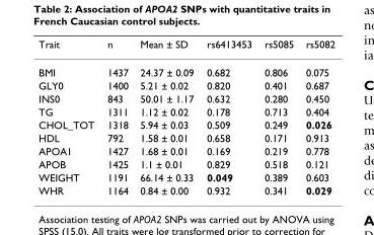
<table><thead><tr><td>Trait</td><td>n</td><td>Mean ± SD</td><td>rs6413453</td><td>rs5085</td><td>rs5082</td></tr></thead><tbody><tr><td>BMI</td><td>1437</td><td>24.37 ± 0.09</td><td>0.682</td><td>0.806</td><td>0.075</td></tr><tr><td>GLY0</td><td>1400</td><td>5.21 ± 0.02</td><td>0.820</td><td>0.401</td><td>0.687</td></tr><tr><td>INS0</td><td>843</td><td>50.01 ± 1.17</td><td>0.632</td><td>0.280</td><td>0.450</td></tr><tr><td>TG</td><td>1311</td><td>1.12 ± 0.02</td><td>0.178</td><td>0.713</td><td>0.404</td></tr><tr><td>CHOL_TOT</td><td>1318</td><td>5.94 ± 0.03</td><td>0.509</td><td>0.249</td><td>0.026</td></tr><tr><td>HDL</td><td>792</td><td>1.58 ± 0.01</td><td>0.658</td><td>0.171</td><td>0.913</td></tr><tr><td>APOA1</td><td>1427</td><td>1.68 ± 0.01</td><td>0.169</td><td>0.219</td><td>0.778</td></tr><tr><td>APOB</td><td>1425</td><td>1.1 ± 0.01</td><td>0.829</td><td>0.518</td><td>0.121</td></tr><tr><td>WEIGHT</td><td>1191</td><td>66.14 ± 0.33</td><td>0.049</td><td>0.389</td><td>0.603</td></tr><tr><td>WHR</td><td>1164</td><td>0.84 ± 0.00</td><td>0.932</td><td>0.341</td><td>0.029</td></tr></tbody></table>